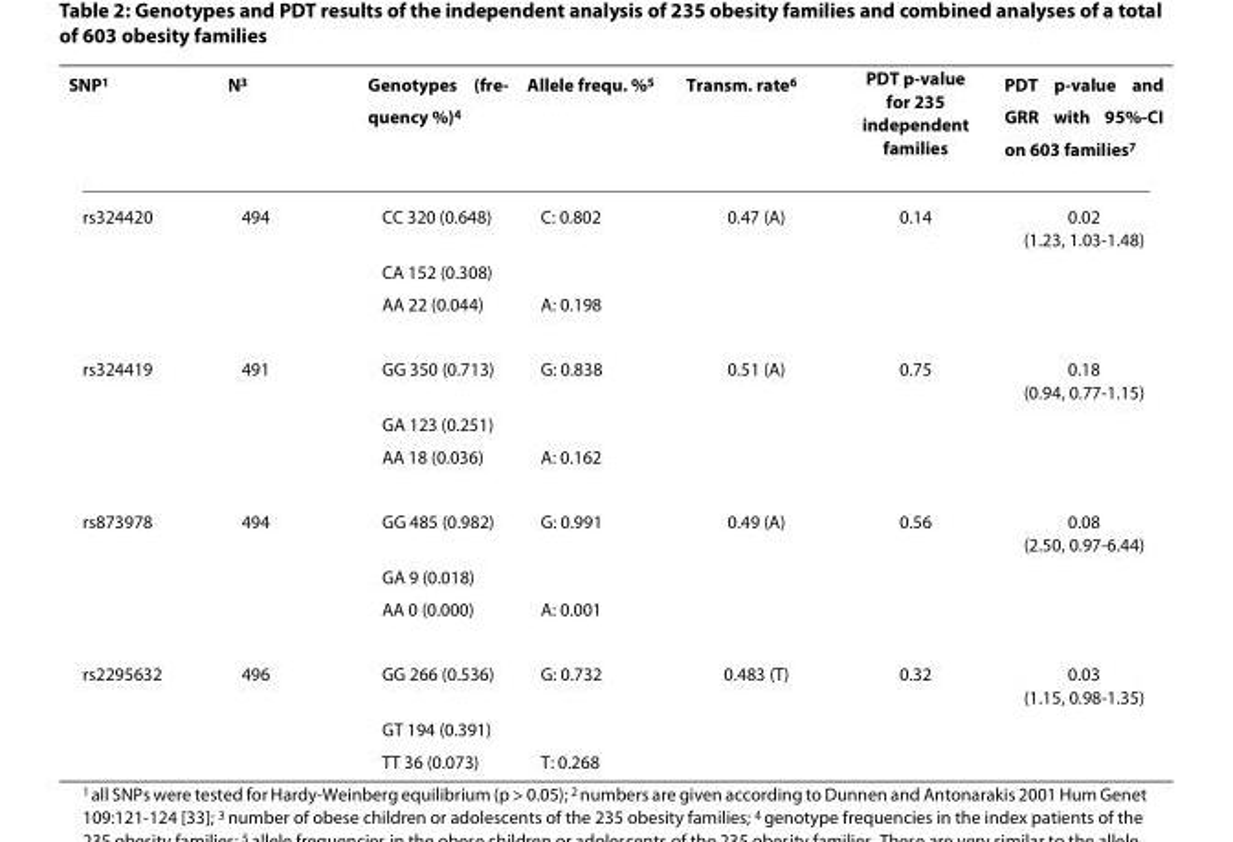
<table><thead><tr><td>SNP<sup>1</sup></td><td>N<sup>3</sup></td><td>Genotypes (fre- quency %)4</td><td>Allele frequ. %<sup>5</sup></td><td>Transm. rate<sup>6</sup></td><td>PDT p-value for 235 independent families</td><td>PDT p-value and GRR with 95%-CI on 603 families<sup>7</sup></td></tr></thead><tbody><tr><td rowspan="3">rs324420</td><td>494</td><td>CC 320 (0.648)</td><td>C: 0.802</td><td>0.47 (A)</td><td>0.14</td><td>0.02 (1.23, 1.03-1.48)</td></tr><tr><td></td><td>CA 152 (0.308)</td><td></td><td></td><td></td><td></td></tr><tr><td></td><td>AA 22 (0.044)</td><td>A: 0.198</td><td></td><td></td><td></td></tr><tr><td rowspan="3">rs324419</td><td>491</td><td>GG 350 (0.713)</td><td>G: 0.838</td><td>0.51 (A)</td><td>0.75</td><td>0.18 (0.94, 0.77-1.15)</td></tr><tr><td></td><td>GA 123 (0.251)</td><td></td><td></td><td></td><td></td></tr><tr><td></td><td>AA 18 (0.036)</td><td>A: 0.162</td><td></td><td></td><td></td></tr><tr><td rowspan="3">rs873978</td><td>494</td><td>GG 485 (0.982)</td><td>G: 0.991</td><td>0.49 (A)</td><td>0.56</td><td>0.08 (2.50, 0.97-6.44)</td></tr><tr><td></td><td>GA 9 (0.018)</td><td></td><td></td><td></td><td></td></tr><tr><td></td><td>AA 0 (0.000)</td><td>A: 0.001</td><td></td><td></td><td></td></tr><tr><td rowspan="3">rs2295632</td><td>496</td><td>GG 266 (0.536)</td><td>G: 0.732</td><td>0.483 (T)</td><td>0.32</td><td>0.03 (1.15, 0.98-1.35)</td></tr><tr><td></td><td>GT 194 (0.391)</td><td></td><td></td><td></td><td></td></tr><tr><td></td><td>TT 36 (0.073)</td><td>T: 0.268</td><td></td><td></td><td></td></tr></tbody></table>